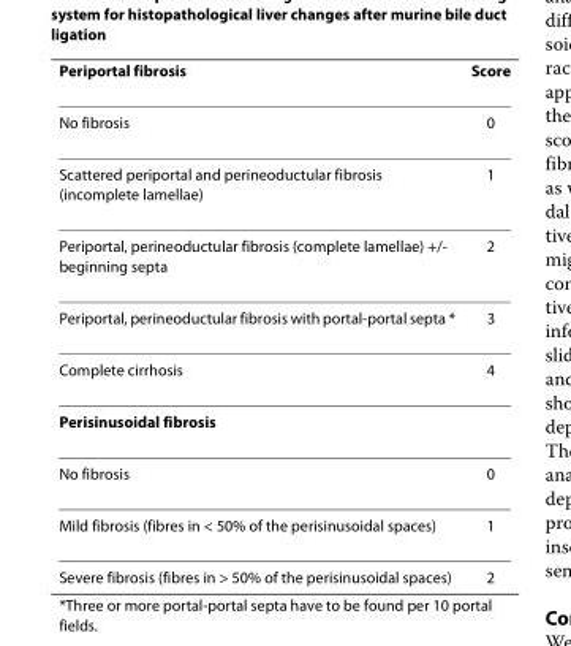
<table><thead><tr><td>Periportal fibrosis</td><td>Score</td></tr></thead><tbody><tr><td>No fibrosis</td><td>0</td></tr><tr><td>Scattered periportal and perineoductular fibrosis (incomplete lamellae)</td><td>1</td></tr><tr><td>Periportal, perineoductular fibrosis (complete lamellae) +/- beginning septa</td><td>2</td></tr><tr><td>Periportal, perineoductular fibrosis with portal-portal septa *</td><td>3</td></tr><tr><td>Complete cirrhosis</td><td>4</td></tr><tr><td colspan="2">Perisinusoidal fibrosis</td></tr><tr><td>No fibrosis</td><td>0</td></tr><tr><td>Mild fibrosis (fibres in &lt; 50% of the perisinusoidal spaces)</td><td>1</td></tr><tr><td>Severe fibrosis (fibres in &gt; 50% of the perisinusoidal spaces)</td><td>2</td></tr></tbody></table>